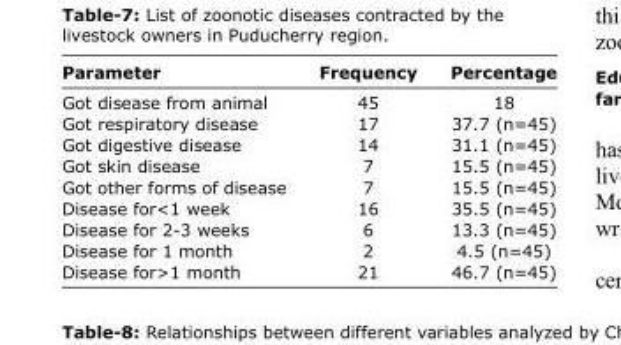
<table><thead><tr><td>Parameter</td><td>Frequency</td><td>Percentage</td></tr></thead><tbody><tr><td>Got disease from animal</td><td>45</td><td>18</td></tr><tr><td>Got respiratory disease</td><td>17</td><td>37.7 (n=45)</td></tr><tr><td>Got digestive disease</td><td>14</td><td>31.1 (n=45)</td></tr><tr><td>Got skin disease</td><td>7</td><td>15.5 (n=45)</td></tr><tr><td>Got other forms of disease</td><td>7</td><td>15.5 (n=45)</td></tr><tr><td>Disease for&lt;1 week</td><td>16</td><td>35.5 (n=45)</td></tr><tr><td>Disease for 2-3 weeks</td><td>6</td><td>13.3 (n=45)</td></tr><tr><td>Disease for 1 month</td><td>2</td><td>4.5 (n=45)</td></tr><tr><td>Disease for&gt;1 month</td><td>21</td><td>46.7 (n=45)</td></tr></tbody></table>